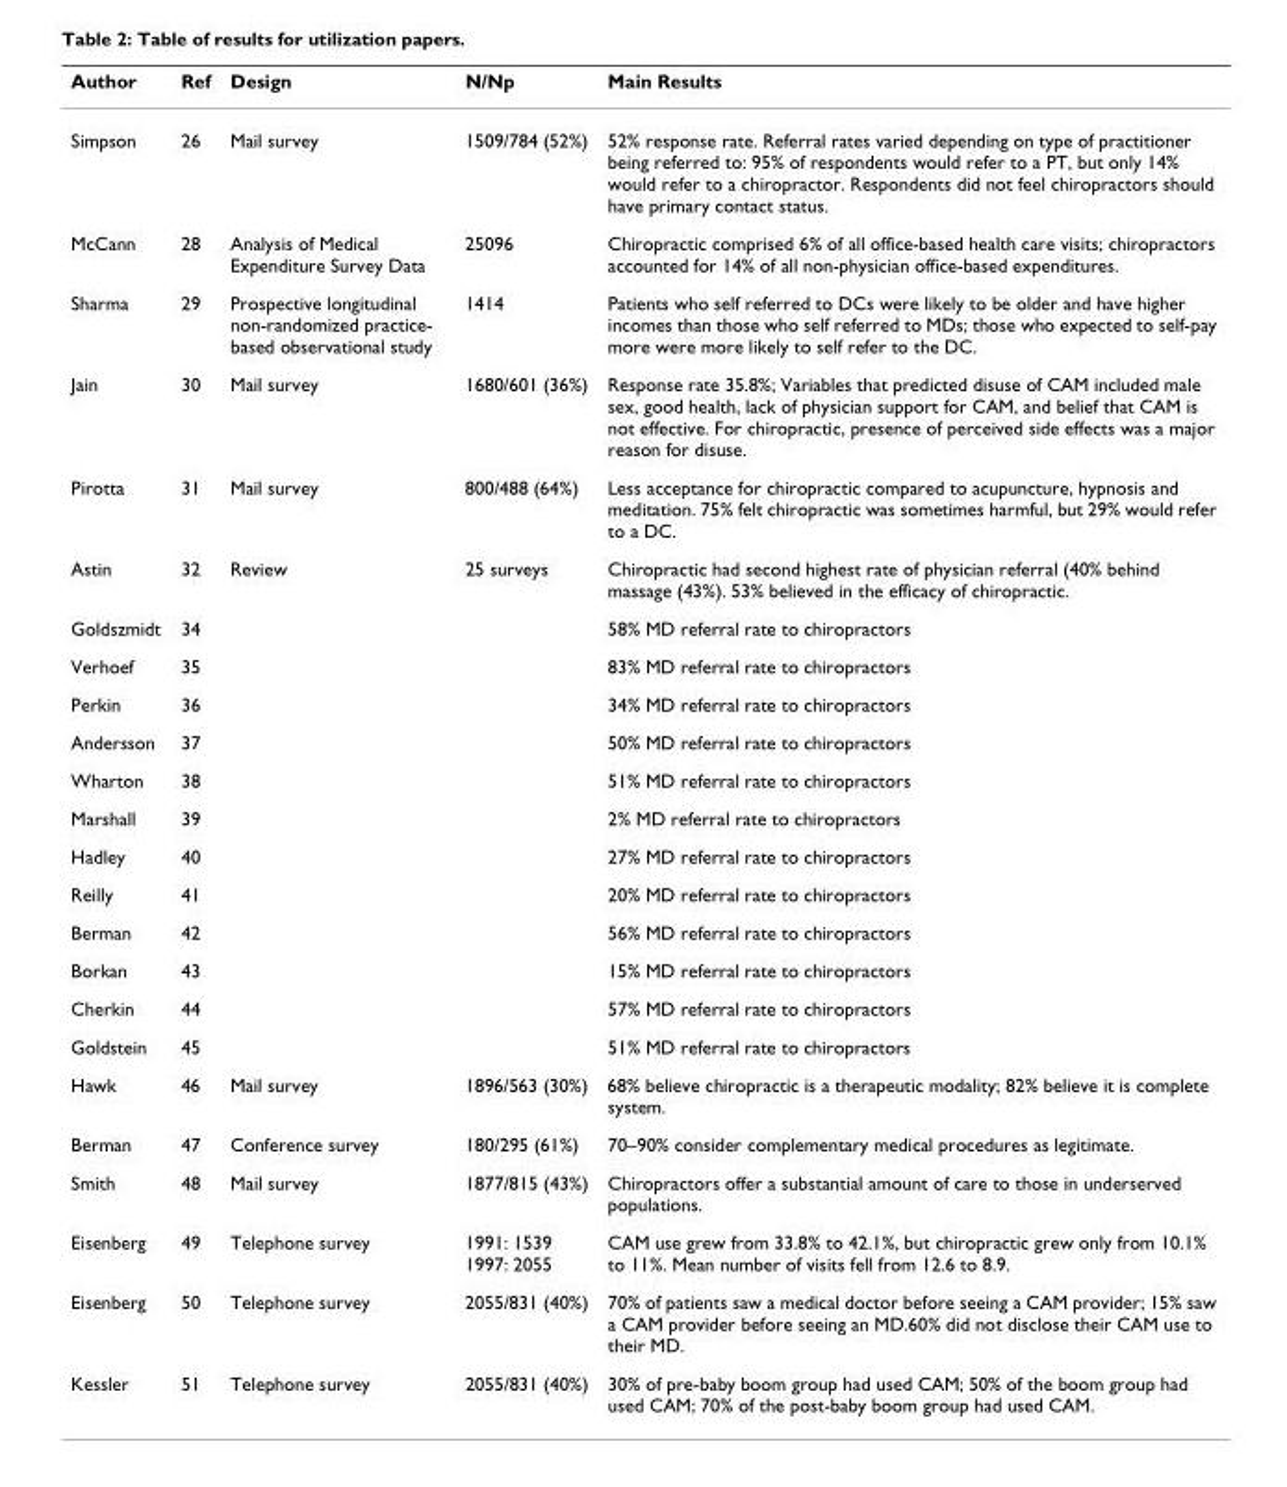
<table><thead><tr><td>Author</td><td>Ref</td><td>Design</td><td>N/Np</td><td>Main Results</td></tr></thead><tbody><tr><td>Simpson</td><td>26</td><td>Mail survey</td><td>1509/784 (52%)</td><td>52% response rate. Referral rates varied depending on type of practitioner being referred to: 95% of respondents would refer to a PT, but only 14% would refer to a chiropractor. Respondents did not feel chiropractors should have primary contact status.</td></tr><tr><td>McCann</td><td>28</td><td>Analysis of Medical Expenditure Survey Data</td><td>25096</td><td>Chiropractic comprised 6% of all office-based health care visits; chiropractors accounted for 14% of all non-physician office-based expenditures.</td></tr><tr><td>Sharma</td><td>29</td><td>Prospective longitudinal non-randomized practice- based observational study</td><td>1414</td><td>Patients who self referred to DCs were likely to be older and have higher incomes than those who self referred to MDs; those who expected to self-pay more were more likely to self refer to the DC.</td></tr><tr><td>Jain</td><td>30</td><td>Mail survey</td><td>1680/601 (36%)</td><td>Response rate 35.8%; Variables that predicted disuse of CAM included male sex, good health, lack of physician support for CAM, and belief that CAM is not effective. For chiropractic, presence of perceived side effects was a major reason for disuse.</td></tr><tr><td>Pirotta</td><td>31</td><td>Mail survey</td><td>800/488 (64%)</td><td>Less acceptance for chiropractic compared to acupuncture, hypnosis and meditation. 75% felt chiropractic was sometimes harmful, but 29% would refer to a DC.</td></tr><tr><td>Astin</td><td>32</td><td>Review</td><td>25 surveys</td><td>Chiropractic had second highest rate of physician referral (40% behind massage (43%). 53% believed in the efficacy of chiropractic.</td></tr><tr><td>Goldszmidt</td><td>34</td><td></td><td></td><td>58% MD referral rate to chiropractors</td></tr><tr><td>Verhoef</td><td>35</td><td></td><td></td><td>83% MD referral rate to chiropractors</td></tr><tr><td>Perkin</td><td>36</td><td></td><td></td><td>34% MD referral rate to chiropractors</td></tr><tr><td>Andersson</td><td>37</td><td></td><td></td><td>50% MD referral rate to chiropractors</td></tr><tr><td>Wharton</td><td>38</td><td></td><td></td><td>51% MD referral rate to chiropractors</td></tr><tr><td>Marshall</td><td>39</td><td></td><td></td><td>2% MD referral rate to chiropractors</td></tr><tr><td>Hadley</td><td>40</td><td></td><td></td><td>27% MD referral rate to chiropractors</td></tr><tr><td>Reilly</td><td>41</td><td></td><td></td><td>20% MD referral rate to chiropractors</td></tr><tr><td>Berman</td><td>42</td><td></td><td></td><td>56% MD referral rate to chiropractors</td></tr><tr><td>Borkan</td><td>43</td><td></td><td></td><td>15% MD referral rate to chiropractors</td></tr><tr><td>Cherkin</td><td>44</td><td></td><td></td><td>57% MD referral rate to chiropractors</td></tr><tr><td>Goldstein</td><td>45</td><td></td><td></td><td>51% MD referral rate to chiropractors</td></tr><tr><td>Hawk</td><td>46</td><td>Mail survey</td><td>1896/563 (30%)</td><td>68% believe chiropractic is a therapeutic modality; 82% believe it is complete system.</td></tr><tr><td>Berman</td><td>47</td><td>Conference survey</td><td>180/295 (61%)</td><td>70–90% consider complementary medical procedures as legitimate.</td></tr><tr><td>Smith</td><td>48</td><td>Mail survey</td><td>1877/815 (43%)</td><td>Chiropractors offer a substantial amount of care to those in underserved populations.</td></tr><tr><td>Eisenberg</td><td>49</td><td>Telephone survey</td><td>1991: 1539 1997: 2055</td><td>CAM use grew from 33.8% to 42.1%, but chiropractic grew only from 10.1% to 11%. Mean number of visits fell from 12.6 to 8.9.</td></tr><tr><td>Eisenberg</td><td>50</td><td>Telephone survey</td><td>2055/831 (40%)</td><td>70% of patients saw a medical doctor before seeing a CAM provider; 15% saw a CAM provider before seeing an MD.60% did not disclose their CAM use to their MD.</td></tr><tr><td>Kessler</td><td>51</td><td>Telephone survey</td><td>2055/831 (40%)</td><td>30% of pre-baby boom group had used CAM; 50% of the boom group had used CAM; 70% of the post-baby boom group had used CAM.</td></tr></tbody></table>